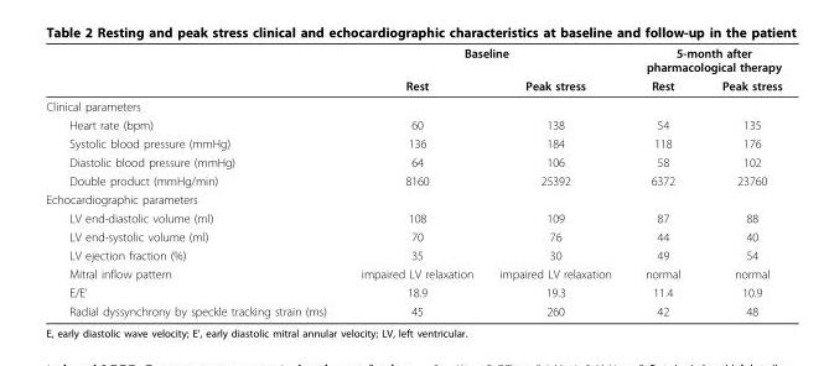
<table><thead><tr><td rowspan="2"></td><td colspan="2">Baseline</td><td colspan="2">5-month after pharmacological therapy</td></tr><tr><td>Rest</td><td>Peak stress</td><td>Rest</td><td>Peak stress</td></tr></thead><tbody><tr><td colspan="5">Clinical parameters</td></tr><tr><td>Heart rate (bpm)</td><td>60</td><td>138</td><td>54</td><td>135</td></tr><tr><td>Systolic blood pressure (mmHg)</td><td>136</td><td>184</td><td>118</td><td>176</td></tr><tr><td>Diastolic blood pressure (mmHg)</td><td>64</td><td>106</td><td>58</td><td>102</td></tr><tr><td>Double product (mmHg/min)</td><td>8160</td><td>25392</td><td>6372</td><td>23760</td></tr><tr><td colspan="5">Echocardiographic parameters</td></tr><tr><td>LV end-diastolic volume (ml)</td><td>108</td><td>109</td><td>87</td><td>88</td></tr><tr><td>LV end-systolic volume (ml)</td><td>70</td><td>76</td><td>44</td><td>40</td></tr><tr><td>LV ejection fraction (%)</td><td>35</td><td>30</td><td>49</td><td>54</td></tr><tr><td>Mitral inflow pattern</td><td>impaired LV relaxation</td><td>impaired LV relaxation</td><td>normal</td><td>normal</td></tr><tr><td>E/E’</td><td>18.9</td><td>19.3</td><td>11.4</td><td>10.9</td></tr><tr><td>Radial dyssynchrony by speckle tracking strain (ms)</td><td>45</td><td>260</td><td>42</td><td>48</td></tr></tbody></table>